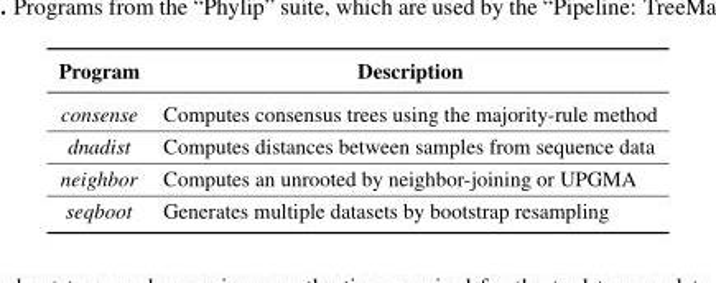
<table><thead><tr><td>Program</td><td>Description</td></tr></thead><tbody><tr><td>consense</td><td>Computes consensus trees using the majority-rule method</td></tr><tr><td>dnadist</td><td>Computes distances between samples from sequence data</td></tr><tr><td>neighbor</td><td>Computes an unrooted by neighbor-joining or UPGMA</td></tr><tr><td>seqboot</td><td>Generates multiple datasets by bootstrap resampling</td></tr></tbody></table>